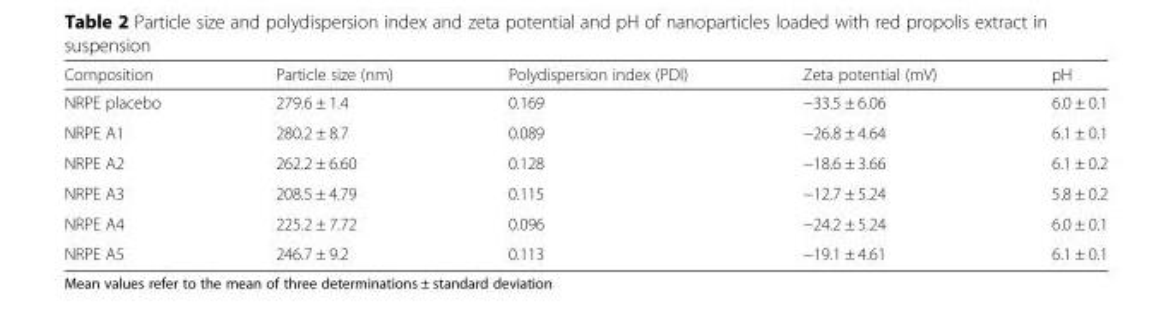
<table><thead><tr><td>Composition</td><td>Particle size (nm)</td><td>Polydispersion index (PDI)</td><td>Zeta potential (mV)</td><td>pH</td></tr></thead><tbody><tr><td>NRPE placebo</td><td>279.6 ± 1.4</td><td>0.169</td><td>−33.5 ± 6.06</td><td>6.0 ± 0.1</td></tr><tr><td>NRPE A1</td><td>280.2 ± 8.7</td><td>0.089</td><td>−26.8 ± 4.64</td><td>6.1 ± 0.1</td></tr><tr><td>NRPE A2</td><td>262.2 ± 6.60</td><td>0.128</td><td>−18.6 ± 3.66</td><td>6.1 ± 0.2</td></tr><tr><td>NRPE A3</td><td>208.5 ± 4.79</td><td>0.115</td><td>−12.7 ± 5.24</td><td>5.8 ± 0.2</td></tr><tr><td>NRPE A4</td><td>225.2 ± 7.72</td><td>0.096</td><td>−24.2 ± 5.24</td><td>6.0 ± 0.1</td></tr><tr><td>NRPE A5</td><td>246.7 ± 9.2</td><td>0.113</td><td>−19.1 ± 4.61</td><td>6.1 ± 0.1</td></tr></tbody></table>